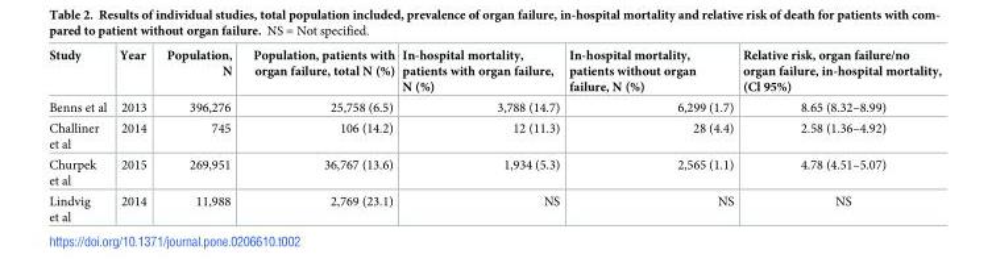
<table><thead><tr><td>Study</td><td>Year</td><td>Population, N</td><td>Population, patients with organ failure, total N (%)</td><td>In-hospital mortality, patients with organ failure, N (%)</td><td>In-hospital mortality, patients without organ failure, N (%)</td><td>Relative risk, organ failure/no organ failure, in-hospital mortality, (Cl 95%)</td></tr></thead><tbody><tr><td>Benns et al</td><td>2013</td><td>396,276</td><td>25,758 (6.5)</td><td>3,788 (14.7)</td><td>6,299 (1.7)</td><td>8.65 (8.32–8.99)</td></tr><tr><td>Challiner et al</td><td>2014</td><td>745</td><td>106 (14.2)</td><td>12 (11.3)</td><td>28 (4.4)</td><td>2.58 (1.36–4.92)</td></tr><tr><td>Churpek et al</td><td>2015</td><td>269,951</td><td>36,767 (13.6)</td><td>1,934 (5.3)</td><td>2,565 (1.1)</td><td>4.78 (4.51–5.07)</td></tr><tr><td>Lindvig et al</td><td>2014</td><td>11,988</td><td>2,769 (23.1)</td><td>NS</td><td>NS</td><td>NS</td></tr></tbody></table>